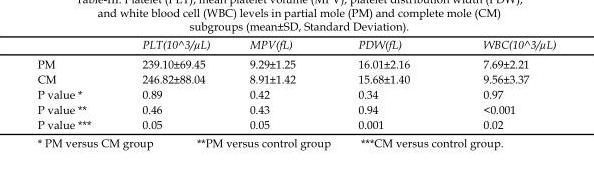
<table><thead><tr><td></td><td>PLT(10^3/µL)</td><td>MPV(fL)</td><td>PDW(fL)</td><td>WBC(10^3/µL)</td></tr></thead><tbody><tr><td>PM</td><td>239.10±69.45</td><td>9.29±1.25</td><td>16.01±2.16</td><td>7.69±2.21</td></tr><tr><td>CM</td><td>246.82±88.04</td><td>8.91±1.42</td><td>15.68±1.40</td><td>9.56±3.37</td></tr><tr><td>P value *</td><td>0.89</td><td>0.42</td><td>0.34</td><td>0.97</td></tr><tr><td>P value **</td><td>0.46</td><td>0.43</td><td>0.94</td><td>&lt;0.001</td></tr><tr><td>P value ***</td><td>0.05</td><td>0.05</td><td>0.001</td><td>0.02</td></tr></tbody></table>